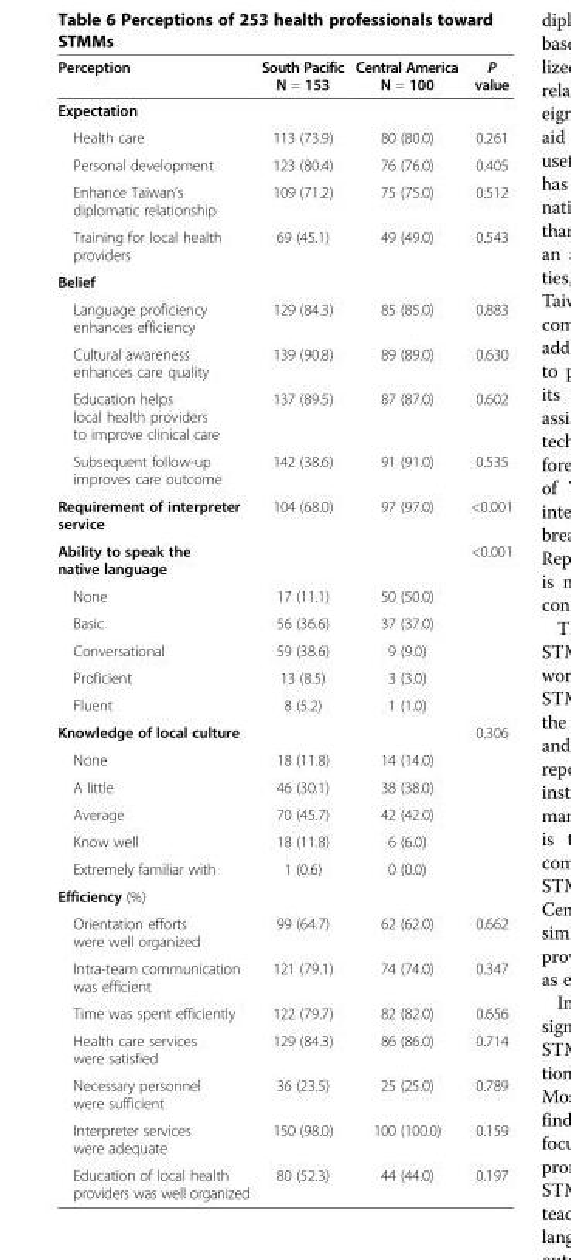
<table><thead><tr><td>Perception</td><td>South Pacific N = 153</td><td>Central America N = 100</td><td>P value</td></tr></thead><tbody><tr><td colspan="4">Expectation</td></tr><tr><td>Health care</td><td>113 (73.9)</td><td>80 (80.0)</td><td>0.261</td></tr><tr><td>Personal development</td><td>123 (80.4)</td><td>76 (76.0)</td><td>0.405</td></tr><tr><td>Enhance Taiwan’s diplomatic relationship</td><td>109 (71.2)</td><td>75 (75.0)</td><td>0.512</td></tr><tr><td>Training for local health providers</td><td>69 (45.1)</td><td>49 (49.0)</td><td>0.543</td></tr><tr><td colspan="4">Belief</td></tr><tr><td>Language proficiency enhances efficiency</td><td>129 (84.3)</td><td>85 (85.0)</td><td>0.883</td></tr><tr><td>Cultural awareness enhances care quality</td><td>139 (90.8)</td><td>89 (89.0)</td><td>0.630</td></tr><tr><td>Education helps local health providers to improve clinical care</td><td>137 (89.5)</td><td>87 (87.0)</td><td>0.602</td></tr><tr><td>Subsequent follow-up improves care outcome</td><td>142 (38.6)</td><td>91 (91.0)</td><td>0.535</td></tr><tr><td>Requirement of interpreter service</td><td>104 (68.0)</td><td>97 (97.0)</td><td>&lt;0.001</td></tr><tr><td>Ability to speak the native language</td><td></td><td></td><td>&lt;0.001</td></tr><tr><td>None</td><td>17 (11.1)</td><td>50 (50.0)</td><td></td></tr><tr><td>Basic</td><td>56 (36.6)</td><td>37 (37.0)</td><td></td></tr><tr><td>Conversational</td><td>59 (38.6)</td><td>9 (9.0)</td><td></td></tr><tr><td>Proficient</td><td>13 (8.5)</td><td>3 (3.0)</td><td></td></tr><tr><td>Fluent</td><td>8 (5.2)</td><td>1 (1.0)</td><td></td></tr><tr><td>Knowledge of local culture</td><td></td><td></td><td>0.306</td></tr><tr><td>None</td><td>18 (11.8)</td><td>14 (14.0)</td><td></td></tr><tr><td>A little</td><td>46 (30.1)</td><td>38 (38.0)</td><td></td></tr><tr><td>Average</td><td>70 (45.7)</td><td>42 (42.0)</td><td></td></tr><tr><td>Know well</td><td>18 (11.8)</td><td>6 (6.0)</td><td></td></tr><tr><td>Extremely familiar with</td><td>1 (0.6)</td><td>0 (0.0)</td><td></td></tr><tr><td colspan="4">Efficiency (%)</td></tr><tr><td>Orientation efforts were well organized</td><td>99 (64.7)</td><td>62 (62.0)</td><td>0.662</td></tr><tr><td>Intra-team communication was efficient</td><td>121 (79.1)</td><td>74 (74.0)</td><td>0.347</td></tr><tr><td>Time was spent efficiently</td><td>122 (79.7)</td><td>82 (82.0)</td><td>0.656</td></tr><tr><td>Health care services were satisfied</td><td>129 (84.3)</td><td>86 (86.0)</td><td>0.714</td></tr><tr><td>Necessary personnel were sufficient</td><td>36 (23.5)</td><td>25 (25.0)</td><td>0.789</td></tr><tr><td>Interpreter services were adequate</td><td>150 (98.0)</td><td>100 (100.0)</td><td>0.159</td></tr><tr><td>Education of local health providers was well organized</td><td>80 (52.3)</td><td>44 (44.0)</td><td>0.197</td></tr></tbody></table>